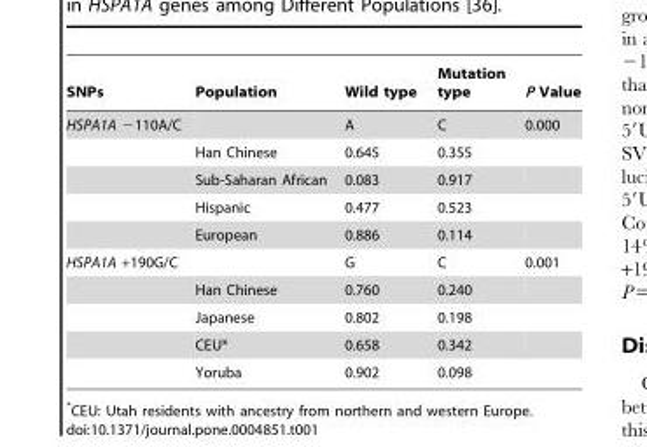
<table><thead><tr><td>SNPs</td><td>Population</td><td>Wild type</td><td>Mutation type</td><td>P Value</td></tr></thead><tbody><tr><td rowspan="5">HSPA1A −110A/C</td><td></td><td>A</td><td>C</td><td>0.000</td></tr><tr><td>Han Chinese</td><td>0.645</td><td>0.355</td><td></td></tr><tr><td>Sub-Saharan African</td><td>0.083</td><td>0.917</td><td></td></tr><tr><td>Hispanic</td><td>0.477</td><td>0.523</td><td></td></tr><tr><td>European</td><td>0.886</td><td>0.114</td><td></td></tr><tr><td rowspan="5">HSPA1A +190G/C</td><td></td><td>G</td><td>C</td><td>0.001</td></tr><tr><td>Han Chinese</td><td>0.760</td><td>0.240</td><td></td></tr><tr><td>Japanese</td><td>0.802</td><td>0.198</td><td></td></tr><tr><td>CEU*</td><td>0.658</td><td>0.342</td><td></td></tr><tr><td>Yoruba</td><td>0.902</td><td>0.098</td><td></td></tr></tbody></table>